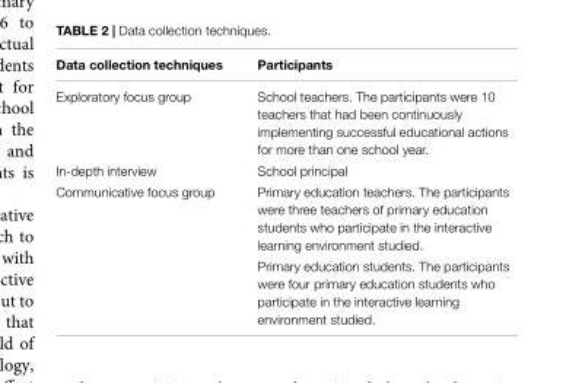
<table><thead><tr><td>Data collection techniques</td><td>Participants</td></tr></thead><tbody><tr><td>Exploratory focus group</td><td>School teachers. The participants were 10 teachers that had been continuously implementing successful educational actions for more than one school year.</td></tr><tr><td>In-depth interview</td><td>School principal</td></tr><tr><td rowspan="2">Communicative focus group</td><td>Primary education teachers. The participants were three teachers of primary education students who participate in the interactive learning environment studied.</td></tr><tr><td>Primary education students. The participants were four primary education students who participate in the interactive learning environment studied.</td></tr></tbody></table>